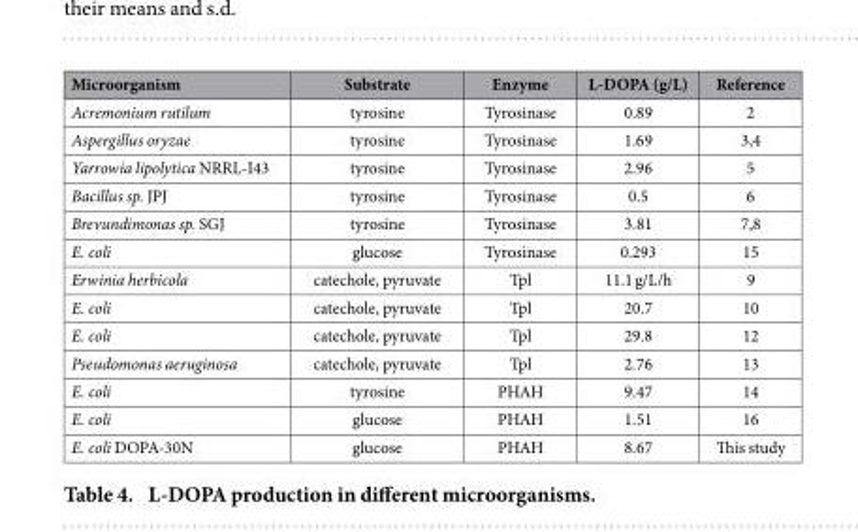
<table><thead><tr><td>Microorganism</td><td>Substrate</td><td>Enzyme</td><td>L-DOPA (g/L)</td><td>Reference</td></tr></thead><tbody><tr><td>Acremonium rutilum</td><td>tyrosine</td><td>Tyrosinase</td><td>0.89</td><td>2</td></tr><tr><td>Aspergillus oryzae</td><td>tyrosine</td><td>Tyrosinase</td><td>1.69</td><td>3,4</td></tr><tr><td>Yarrowia lipolytica NRRL-I43</td><td>tyrosine</td><td>Tyrosinase</td><td>2.96</td><td>5</td></tr><tr><td>Bacillus sp. JPJ</td><td>tyrosine</td><td>Tyrosinase</td><td>0.5</td><td>6</td></tr><tr><td>Brevundimonas sp. SGJ</td><td>tyrosine</td><td>Tyrosinase</td><td>3.81</td><td>7,8</td></tr><tr><td>E. coli</td><td>glucose</td><td>Tyrosinase</td><td>0.293</td><td>15</td></tr><tr><td>Erwinia herbicola</td><td>catechole, pyruvate</td><td>Tpl</td><td>11.1 g/L/h</td><td>9</td></tr><tr><td>E. coli</td><td>catechole, pyruvate</td><td>Tpl</td><td>20.7</td><td>10</td></tr><tr><td>E. coli</td><td>catechole, pyruvate</td><td>Tpl</td><td>29.8</td><td>12</td></tr><tr><td>Pseudomonas aeruginosa</td><td>catechole, pyruvate</td><td>Tpl</td><td>2.76</td><td>13</td></tr><tr><td>E. coli</td><td>tyrosine</td><td>PHAH</td><td>9.47</td><td>14</td></tr><tr><td>E. coli</td><td>glucose</td><td>PHAH</td><td>1.51</td><td>16</td></tr><tr><td>E. coli DOPA-30N</td><td>glucose</td><td>PHAH</td><td>8.67</td><td>This study</td></tr></tbody></table>